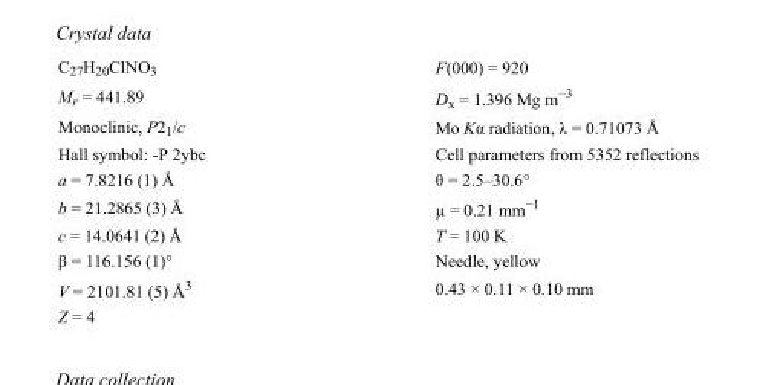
<table><tbody><tr><td>C<sub>27</sub>H<sub>20</sub>ClNO<sub>3</sub></td><td>F(000) = 920</td></tr><tr><td>M<sub>r</sub> = 441.89</td><td>D<sub>x</sub> = 1.396 Mg m<sup>−3</sup></td></tr><tr><td>Monoclinic, P2<sub>1</sub>/c</td><td>Mo Kα radiation, λ = 0.71073 Å</td></tr><tr><td>Hall symbol: -P 2ybc</td><td>Cell parameters from 5352 reflections</td></tr><tr><td>a = 7.8216 (1) Å</td><td>θ = 2.5–30.6°</td></tr><tr><td>b = 21.2865 (3) Å</td><td>µ = 0.21 mm<sup>−1</sup></td></tr><tr><td>c = 14.0641 (2) Å</td><td>T = 100 K</td></tr><tr><td>β = 116.156 (1)°</td><td>Needle, yellow</td></tr><tr><td>V = 2101.81 (5) Å<sup>3</sup></td><td>0.43 × 0.11 × 0.10 mm</td></tr><tr><td>Z = 4</td><td></td></tr></tbody></table>